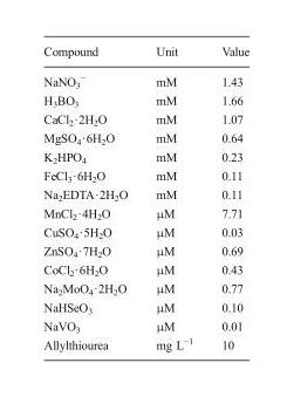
<table><thead><tr><td>Compound</td><td>Unit</td><td>Value</td></tr></thead><tbody><tr><td>NaNO<sub>3</sub> <sup>−</sup></td><td>mM</td><td>1.43</td></tr><tr><td>H<sub>3</sub>BO<sub>3</sub></td><td>mM</td><td>1.66</td></tr><tr><td>CaCl<sub>2</sub>·2H<sub>2</sub>O</td><td>mM</td><td>1.07</td></tr><tr><td>MgSO<sub>4</sub>·6H<sub>2</sub>O</td><td>mM</td><td>0.64</td></tr><tr><td>K<sub>2</sub>HPO<sub>4</sub></td><td>mM</td><td>0.23</td></tr><tr><td>FeCl<sub>3</sub>·6H<sub>2</sub>O</td><td>mM</td><td>0.11</td></tr><tr><td>Na<sub>2</sub>EDTA·2H<sub>2</sub>O</td><td>mM</td><td>0.11</td></tr><tr><td>MnCl<sub>2</sub>·4H<sub>2</sub>O</td><td>μM</td><td>7.71</td></tr><tr><td>CuSO<sub>4</sub>·5H<sub>2</sub>O</td><td>μM</td><td>0.03</td></tr><tr><td>ZnSO<sub>4</sub>·7H<sub>2</sub>O</td><td>μM</td><td>0.69</td></tr><tr><td>CoCl<sub>2</sub>·6H<sub>2</sub>O</td><td>μM</td><td>0.43</td></tr><tr><td>Na<sub>2</sub>MoO<sub>4</sub>·2H<sub>2</sub>O</td><td>μM</td><td>0.77</td></tr><tr><td>NaHSeO<sub>3</sub></td><td>μM</td><td>0.10</td></tr><tr><td>NaVO<sub>3</sub></td><td>μM</td><td>0.01</td></tr><tr><td>Allylthiourea</td><td>mg L<sup>−1</sup></td><td>10</td></tr></tbody></table>